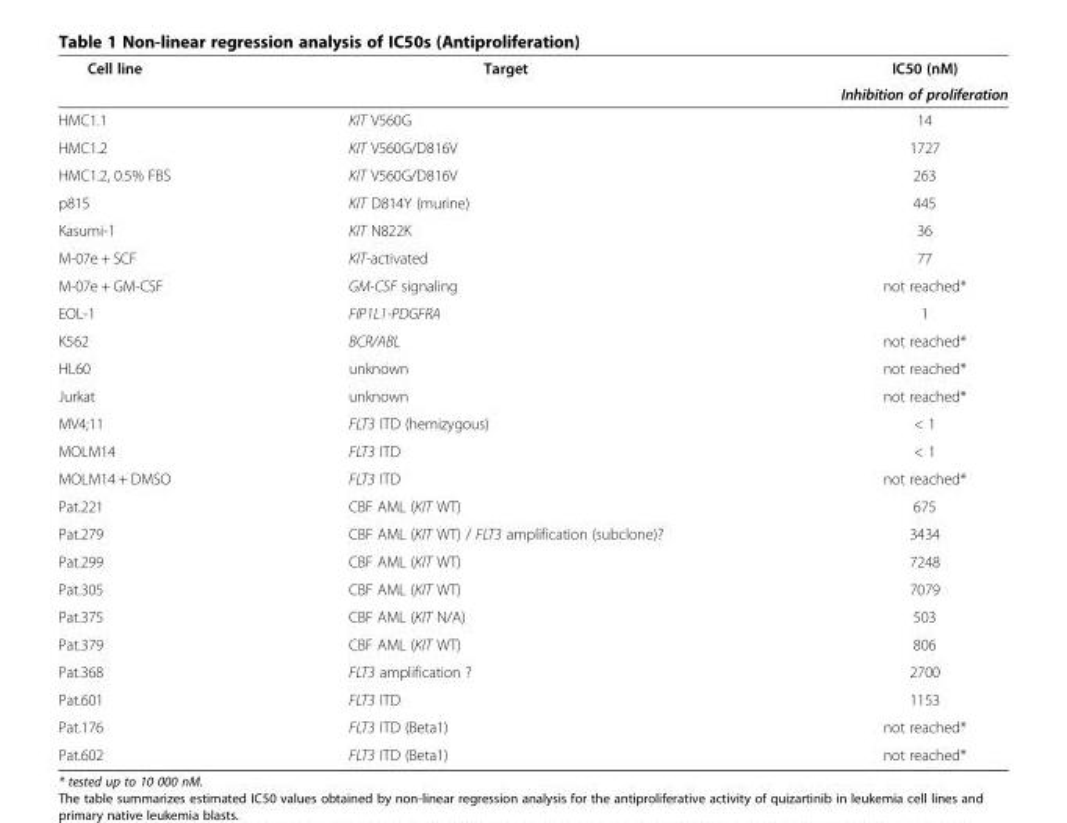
<table><thead><tr><td rowspan="2">Cell line</td><td rowspan="2">Target</td><td rowspan="2">IC50 (nM) Inhibition of proliferation</td></tr><tr></tr></thead><tbody><tr><td>HMC1.1</td><td>KIT V560G</td><td>14</td></tr><tr><td>HMC1.2</td><td>KIT V560G/D816V</td><td>1727</td></tr><tr><td>HMC1.2, 0.5% FBS</td><td>KIT V560G/D816V</td><td>263</td></tr><tr><td>p815</td><td>KIT D814Y (murine)</td><td>445</td></tr><tr><td>Kasumi-1</td><td>KIT N822K</td><td>36</td></tr><tr><td>M-07e + SCF</td><td>KIT-activated</td><td>77</td></tr><tr><td>M-07e + GM-CSF</td><td>GM-CSF signaling</td><td>not reached*</td></tr><tr><td>EOL-1</td><td>FIP1L1-PDGFRA</td><td>1</td></tr><tr><td>K562</td><td>BCR/ABL</td><td>not reached*</td></tr><tr><td>HL60</td><td>unknown</td><td>not reached*</td></tr><tr><td>Jurkat</td><td>unknown</td><td>not reached*</td></tr><tr><td>MV4;11</td><td>FLT3 ITD (hemizygous)</td><td>&lt; 1</td></tr><tr><td>MOLM14</td><td>FLT3 ITD</td><td>&lt; 1</td></tr><tr><td>MOLM14 + DMSO</td><td>FLT3 ITD</td><td>not reached*</td></tr><tr><td>Pat.221</td><td>CBF AML (KIT WT)</td><td>675</td></tr><tr><td>Pat.279</td><td>CBF AML (KIT WT) / FLT3 amplification (subclone)?</td><td>3434</td></tr><tr><td>Pat.299</td><td>CBF AML (KIT WT)</td><td>7248</td></tr><tr><td>Pat.305</td><td>CBF AML (KIT WT)</td><td>7079</td></tr><tr><td>Pat.375</td><td>CBF AML (KIT N/A)</td><td>503</td></tr><tr><td>Pat.379</td><td>CBF AML (KIT WT)</td><td>806</td></tr><tr><td>Pat.368</td><td>FLT3 amplification ?</td><td>2700</td></tr><tr><td>Pat.601</td><td>FLT3 ITD</td><td>1153</td></tr><tr><td>Pat.176</td><td>FLT3 ITD (Beta1)</td><td>not reached*</td></tr><tr><td>Pat.602</td><td>FLT3 ITD (Beta1)</td><td>not reached*</td></tr></tbody></table>